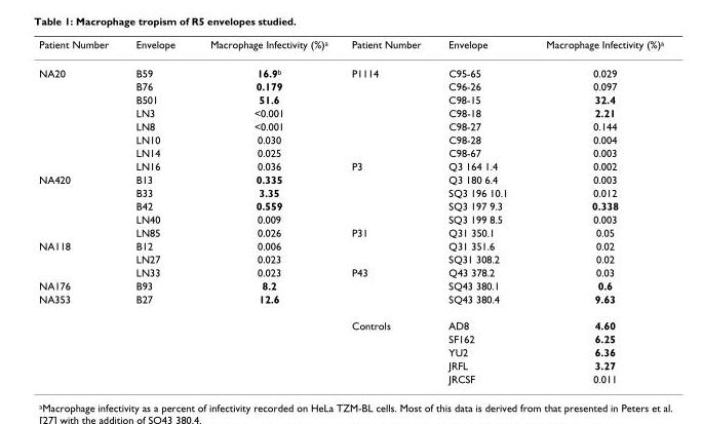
<table><thead><tr><td>Patient Number</td><td>Envelope</td><td>Macrophage Infectivity (%)<sup>a</sup></td><td>Patient Number</td><td>Envelope</td><td>Macrophage Infectivity (%)<sup>a</sup></td></tr></thead><tbody><tr><td rowspan="8">NA20</td><td>B59</td><td>16.9<sup>b</sup></td><td>P1114</td><td>C95-65</td><td>0.029</td></tr><tr><td>B76</td><td>0.179</td><td></td><td>C96-26</td><td>0.097</td></tr><tr><td>B501</td><td>51.6</td><td></td><td>C98-15</td><td>32.4</td></tr><tr><td>LN3</td><td>&lt;0.001</td><td></td><td>C98-18</td><td>2.21</td></tr><tr><td>LN8</td><td>&lt;0.001</td><td></td><td>C98-27</td><td>0.144</td></tr><tr><td>LN10</td><td>0.030</td><td></td><td>C98-28</td><td>0.004</td></tr><tr><td>LN14</td><td>0.025</td><td></td><td>C98-67</td><td>0.003</td></tr><tr><td>LN16</td><td>0.036</td><td>P3</td><td>Q3 164 1.4</td><td>0.002</td></tr><tr><td rowspan="5">NA420</td><td>B13</td><td>0.335</td><td></td><td>Q3 180 6.4</td><td>0.003</td></tr><tr><td>B33</td><td>3.35</td><td></td><td>SQ3 196 10.1</td><td>0.012</td></tr><tr><td>B42</td><td>0.559</td><td></td><td>SQ3 197 9.3</td><td>0.338</td></tr><tr><td>LN40</td><td>0.009</td><td></td><td>SQ3 199 8.5</td><td>0.003</td></tr><tr><td>LN85</td><td>0.026</td><td>P31</td><td>Q31 350.1</td><td>0.05</td></tr><tr><td rowspan="3">NA118</td><td>B12</td><td>0.006</td><td></td><td>Q31 351.6</td><td>0.02</td></tr><tr><td>LN27</td><td>0.023</td><td></td><td>SQ31 308.2</td><td>0.02</td></tr><tr><td>LN33</td><td>0.023</td><td>P43</td><td>Q43 378.2</td><td>0.03</td></tr><tr><td>NA176</td><td>B93</td><td>8.2</td><td></td><td>SQ43 380.1</td><td>0.6</td></tr><tr><td rowspan="6">NA353</td><td>B27</td><td>12.6</td><td></td><td>SQ43 380.4</td><td>9.63</td></tr><tr><td></td><td></td><td>Controls</td><td>AD8</td><td>4.60</td></tr><tr><td></td><td></td><td></td><td>SF162</td><td>6.25</td></tr><tr><td></td><td></td><td></td><td>YU2</td><td>6.36</td></tr><tr><td></td><td></td><td></td><td>JRFL</td><td>3.27</td></tr><tr><td></td><td></td><td></td><td>JRCSF</td><td>0.011</td></tr></tbody></table>